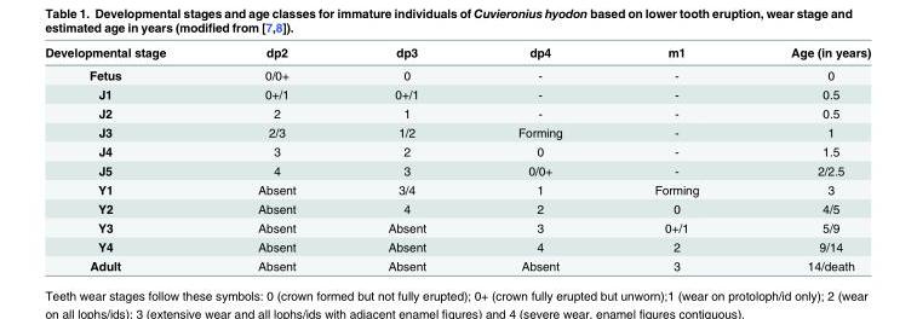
<table><thead><tr><td>Developmental stage</td><td>dp2</td><td>dp3</td><td>dp4</td><td>m1</td><td>Age (in years)</td></tr></thead><tbody><tr><td>Fetus</td><td>0/0+</td><td>0</td><td>-</td><td>-</td><td>0</td></tr><tr><td>J1</td><td>0+/1</td><td>0+/1</td><td>-</td><td>-</td><td>0.5</td></tr><tr><td>J2</td><td>2</td><td>1</td><td>-</td><td>-</td><td>0.5</td></tr><tr><td>J3</td><td>2/3</td><td>1/2</td><td>Forming</td><td>-</td><td>1</td></tr><tr><td>J4</td><td>3</td><td>2</td><td>0</td><td>-</td><td>1.5</td></tr><tr><td>J5</td><td>4</td><td>3</td><td>0/0+</td><td>-</td><td>2/2.5</td></tr><tr><td>Y1</td><td>Absent</td><td>3/4</td><td>1</td><td>Forming</td><td>3</td></tr><tr><td>Y2</td><td>Absent</td><td>4</td><td>2</td><td>0</td><td>4/5</td></tr><tr><td>Y3</td><td>Absent</td><td>Absent</td><td>3</td><td>0+/1</td><td>5/9</td></tr><tr><td>Y4</td><td>Absent</td><td>Absent</td><td>4</td><td>2</td><td>9/14</td></tr><tr><td>Adult</td><td>Absent</td><td>Absent</td><td>Absent</td><td>3</td><td>14/death</td></tr></tbody></table>